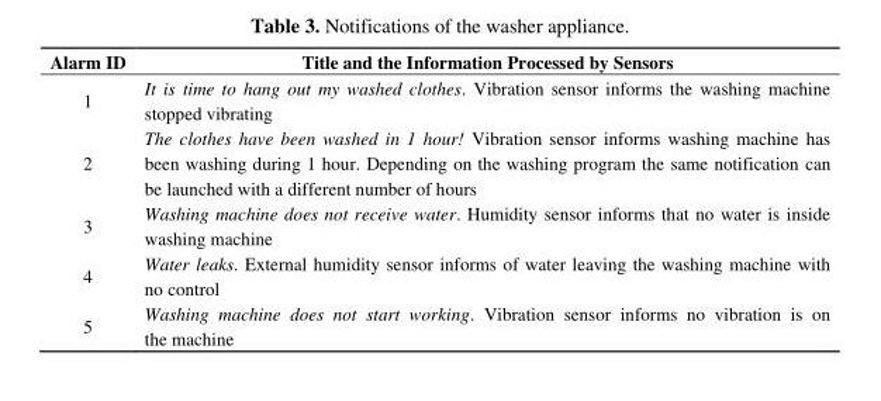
<table><thead><tr><td>Alarm ID</td><td>Title and the Information Processed by Sensors</td></tr></thead><tbody><tr><td>1</td><td>It is time to hang out my washed clothes. Vibration sensor informs the washing machine stopped vibrating</td></tr><tr><td>2</td><td>The clothes have been washed in 1 hour! Vibration sensor informs washing machine has been washing during 1 hour. Depending on the washing program the same notification can be launched with a different number of hours</td></tr><tr><td>3</td><td>Washing machine does not receive water. Humidity sensor informs that no water is inside washing machine</td></tr><tr><td>4</td><td>Water leaks. External humidity sensor informs of water leaving the washing machine with no control</td></tr><tr><td>5</td><td>Washing machine does not start working. Vibration sensor informs no vibration is on the machine</td></tr></tbody></table>